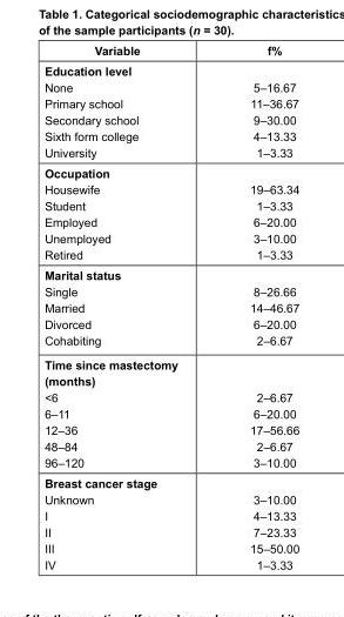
<table><thead><tr><td>Variable</td><td>f%</td></tr></thead><tbody><tr><td>Education level None Primary school Secondary school Sixth form college University</td><td>5–16.67 11–36.67 9–30.00 4–13.33 1–3.33</td></tr><tr><td>Occupation Housewife Student Employed Unemployed Retired</td><td>19–63.34 1–3.33 6–20.00 3–10.00 1–3.33</td></tr><tr><td>Marital status Single Married Divorced Cohabiting</td><td>8–26.66 14–46.67 6–20.00 2–6.67</td></tr><tr><td>Time since mastectomy (months) &lt;6 6–11 12–36 48–84 96–120</td><td>2–6.67 6–20.00 17–56.66 2–6.67 3–10.00</td></tr><tr><td>Breast cancer stage Unknown I II III IV</td><td>3–10.00 4–13.33 7–23.33 15–50.00 1–3.33</td></tr></tbody></table>